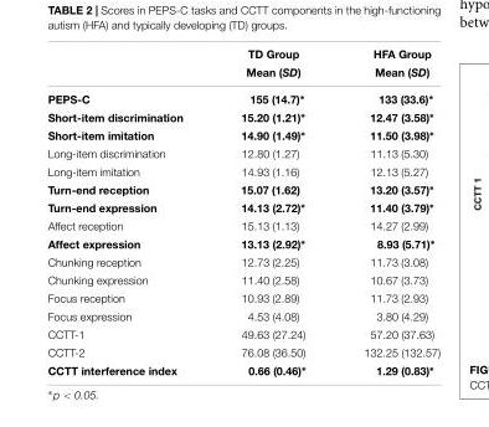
<table><thead><tr><td rowspan="2"></td><td rowspan="2">TD Group Mean (SD)</td><td rowspan="2">HFA Group Mean (SD)</td></tr><tr></tr></thead><tbody><tr><td>PEPS-C</td><td>155 (14.7)∗</td><td>133 (33.6)∗</td></tr><tr><td>Short-item discrimination</td><td>15.20 (1.21)∗</td><td>12.47 (3.58)∗</td></tr><tr><td>Short-item imitation</td><td>14.90 (1.49)∗</td><td>11.50 (3.98)∗</td></tr><tr><td>Long-item discrimination</td><td>12.80 (1.27)</td><td>11.13 (5.30)</td></tr><tr><td>Long-item imitation</td><td>14.93 (1.16)</td><td>12.13 (5.27)</td></tr><tr><td>Turn-end reception</td><td>15.07 (1.62)</td><td>13.20 (3.57)∗</td></tr><tr><td>Turn-end expression</td><td>14.13 (2.72)∗</td><td>11.40 (3.79)∗</td></tr><tr><td>Affect reception</td><td>15.13 (1.13)</td><td>14.27 (2.99)</td></tr><tr><td>Affect expression</td><td>13.13 (2.92)∗</td><td>8.93 (5.71)∗</td></tr><tr><td>Chunking reception</td><td>12.73 (2.25)</td><td>11.73 (3.08)</td></tr><tr><td>Chunking expression</td><td>11.40 (2.58)</td><td>10.67 (3.73)</td></tr><tr><td>Focus reception</td><td>10.93 (2.89)</td><td>11.73 (2.93)</td></tr><tr><td>Focus expression</td><td>4.53 (4.08)</td><td>3.80 (4.29)</td></tr><tr><td>CCTT-1</td><td>49.63 (27.24)</td><td>57.20 (37.63)</td></tr><tr><td>CCTT-2</td><td>76.08 (36.50)</td><td>132.25 (132.57)</td></tr><tr><td>CCTT interference index</td><td>0.66 (0.46)∗</td><td>1.29 (0.83)∗</td></tr></tbody></table>